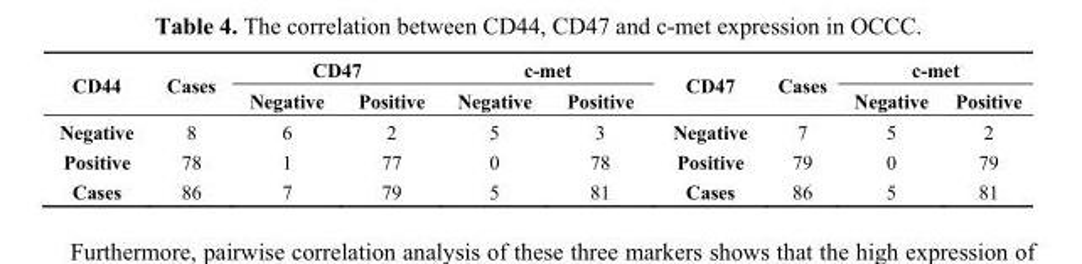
<table><thead><tr><td rowspan="2">CD44</td><td rowspan="2">Cases</td><td colspan="2">CD47</td><td colspan="2">c-met</td><td rowspan="2">CD47</td><td rowspan="2">Cases</td><td colspan="2">c-met</td></tr><tr><td>Negative</td><td>Positive</td><td>Negative</td><td>Positive</td><td>Negative</td><td>Positive</td></tr></thead><tbody><tr><td>Negative</td><td>8</td><td>6</td><td>2</td><td>5</td><td>3</td><td>Negative</td><td>7</td><td>5</td><td>2</td></tr><tr><td>Positive</td><td>78</td><td>1</td><td>77</td><td>0</td><td>78</td><td>Positive</td><td>79</td><td>0</td><td>79</td></tr><tr><td>Cases</td><td>86</td><td>7</td><td>79</td><td>5</td><td>81</td><td>Cases</td><td>86</td><td>5</td><td>81</td></tr></tbody></table>